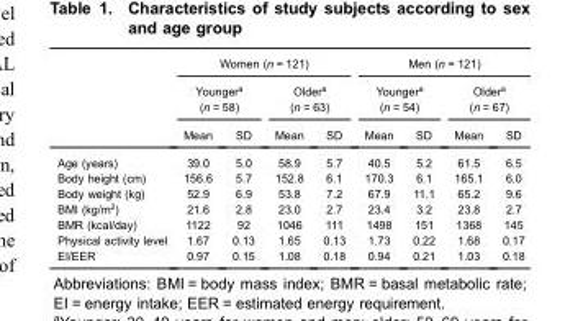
<table><thead><tr><td rowspan="3"></td><td colspan="4">Women (n = 121)</td><td colspan="4">Men (n = 121)</td></tr><tr><td colspan="2">Younger<sup>a</sup> (n = 58)</td><td colspan="2">Older<sup>a</sup> (n = 63)</td><td colspan="2">Younger<sup>a</sup> (n = 54)</td><td colspan="2">Older<sup>a</sup> (n = 67)</td></tr><tr><td>Mean</td><td>SD</td><td>Mean</td><td>SD</td><td>Mean</td><td>SD</td><td>Mean</td><td>SD</td></tr></thead><tbody><tr><td>Age (years)</td><td>39.0</td><td>5.0</td><td>58.9</td><td>5.7</td><td>40.5</td><td>5.2</td><td>61.5</td><td>6.5</td></tr><tr><td>Body height (cm)</td><td>156.6</td><td>5.7</td><td>152.8</td><td>6.1</td><td>170.3</td><td>6.1</td><td>165.1</td><td>6.0</td></tr><tr><td>Body weight (kg)</td><td>52.9</td><td>6.9</td><td>53.8</td><td>7.2</td><td>67.9</td><td>11.1</td><td>65.2</td><td>9.6</td></tr><tr><td>BMI (kg/m<sup>2</sup>)</td><td>21.6</td><td>2.8</td><td>23.0</td><td>2.7</td><td>23.4</td><td>3.2</td><td>23.8</td><td>2.7</td></tr><tr><td>BMR (kcal/day)</td><td>1122</td><td>92</td><td>1046</td><td>111</td><td>1498</td><td>151</td><td>1368</td><td>145</td></tr><tr><td>Physical activity level</td><td>1.67</td><td>0.13</td><td>1.65</td><td>0.13</td><td>1.73</td><td>0.22</td><td>1.68</td><td>0.17</td></tr><tr><td>EI/EER</td><td>0.97</td><td>0.15</td><td>1.08</td><td>0.18</td><td>0.94</td><td>0.21</td><td>1.03</td><td>0.18</td></tr></tbody></table>